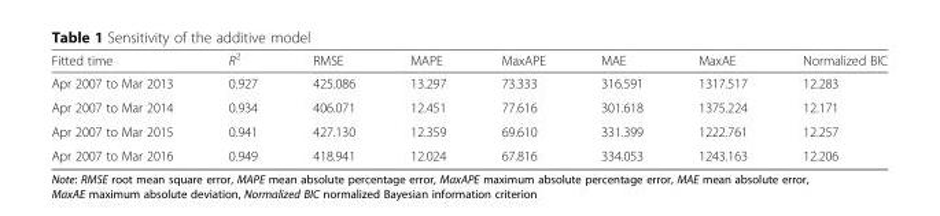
<table><thead><tr><td>Fitted time</td><td>R<sup>2</sup></td><td>RMSE</td><td>MAPE</td><td>MaxAPE</td><td>MAE</td><td>MaxAE</td><td>Normalized BIC</td></tr></thead><tbody><tr><td>Apr 2007 to Mar 2013</td><td>0.927</td><td>425.086</td><td>13.297</td><td>73.333</td><td>316.591</td><td>1317.517</td><td>12.283</td></tr><tr><td>Apr 2007 to Mar 2014</td><td>0.934</td><td>406.071</td><td>12.451</td><td>77.616</td><td>301.618</td><td>1375.224</td><td>12.171</td></tr><tr><td>Apr 2007 to Mar 2015</td><td>0.941</td><td>427.130</td><td>12.359</td><td>69.610</td><td>331.399</td><td>1222.761</td><td>12.257</td></tr><tr><td>Apr 2007 to Mar 2016</td><td>0.949</td><td>418.941</td><td>12.024</td><td>67.816</td><td>334.053</td><td>1243.163</td><td>12.206</td></tr></tbody></table>